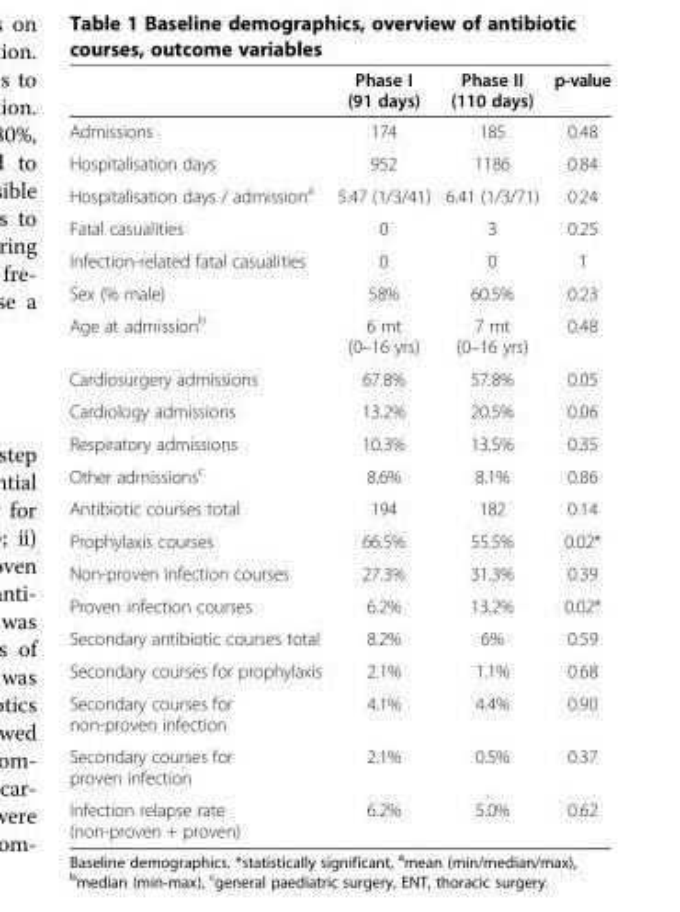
<table><thead><tr><td></td><td>Phase I (91 days)</td><td>Phase II (110 days)</td><td>p-value</td></tr></thead><tbody><tr><td>Admissions</td><td>174</td><td>185</td><td>0.48</td></tr><tr><td>Hospitalisation days</td><td>952</td><td>1186</td><td>0.84</td></tr><tr><td>Hospitalisation days / admission<sup>a</sup></td><td>5.47 (1/3/41)</td><td>6.41 (1/3/71)</td><td>0.24</td></tr><tr><td>Fatal casualities</td><td>0</td><td>3</td><td>0.25</td></tr><tr><td>Infection-related fatal casualities</td><td>0</td><td>0</td><td>1</td></tr><tr><td>Sex (% male)</td><td>58%</td><td>60.5%</td><td>0.23</td></tr><tr><td>Age at admission<sup>b</sup></td><td>6 mt (0–16 yrs)</td><td>7 mt (0–16 yrs)</td><td>0.48</td></tr><tr><td>Cardiosurgery admissions</td><td>67.8%</td><td>57.8%</td><td>0.05</td></tr><tr><td>Cardiology admissions</td><td>13.2%</td><td>20.5%</td><td>0.06</td></tr><tr><td>Respiratory admissions</td><td>10.3%</td><td>13.5%</td><td>0.35</td></tr><tr><td>Other admissions<sup>c</sup></td><td>8.6%</td><td>8.1%</td><td>0.86</td></tr><tr><td>Antibiotic courses total</td><td>194</td><td>182</td><td>0.14</td></tr><tr><td>Prophylaxis courses</td><td>66.5%</td><td>55.5%</td><td>0.02*</td></tr><tr><td>Non-proven infection courses</td><td>27.3%</td><td>31.3%</td><td>0.39</td></tr><tr><td>Proven infection courses</td><td>6.2%</td><td>13.2%</td><td>0.02*</td></tr><tr><td>Secondary antibiotic courses total</td><td>8.2%</td><td>6%</td><td>0.59</td></tr><tr><td>Secondary courses for prophylaxis</td><td>2.1%</td><td>1.1%</td><td>0.68</td></tr><tr><td>Secondary courses for non-proven infection</td><td>4.1%</td><td>4.4%</td><td>0.90</td></tr><tr><td>Secondary courses for proven infection</td><td>2.1%</td><td>0.5%</td><td>0.37</td></tr><tr><td>Infection relapse rate (non-proven + proven)</td><td>6.2%</td><td>5.0%</td><td>0.62</td></tr></tbody></table>